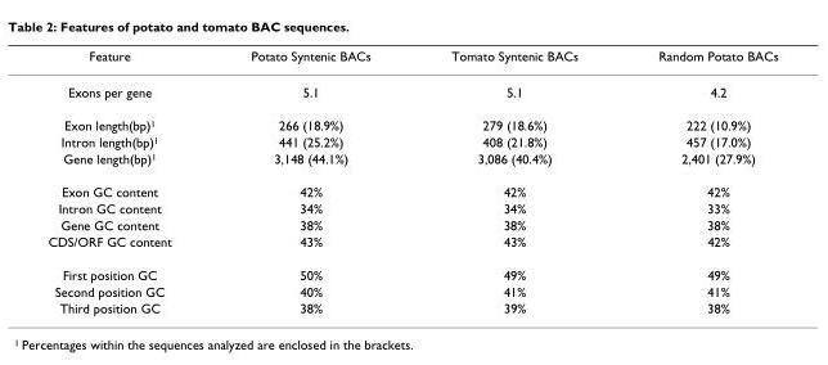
<table><thead><tr><td>Feature</td><td>Potato Syntenic BACs</td><td>Tomato Syntenic BACs</td><td>Random Potato BACs</td></tr></thead><tbody><tr><td>Exons per gene</td><td>5.1</td><td>5.1</td><td>4.2</td></tr><tr><td>Exon length(bp)<sup>1</sup></td><td>266 (18.9%)</td><td>279 (18.6%)</td><td>222 (10.9%)</td></tr><tr><td>Intron length(bp)<sup>1</sup></td><td>441 (25.2%)</td><td>408 (21.8%)</td><td>457 (17.0%)</td></tr><tr><td>Gene length(bp)<sup>1</sup></td><td>3,148 (44.1%)</td><td>3,086 (40.4%)</td><td>2,401 (27.9%)</td></tr><tr><td>Exon GC content</td><td>42%</td><td>42%</td><td>42%</td></tr><tr><td>Intron GC content</td><td>34%</td><td>34%</td><td>33%</td></tr><tr><td>Gene GC content</td><td>38%</td><td>38%</td><td>38%</td></tr><tr><td>CDS/ORF GC content</td><td>43%</td><td>43%</td><td>42%</td></tr><tr><td>First position GC</td><td>50%</td><td>49%</td><td>49%</td></tr><tr><td>Second position GC</td><td>40%</td><td>41%</td><td>41%</td></tr><tr><td>Third position GC</td><td>38%</td><td>39%</td><td>38%</td></tr></tbody></table>